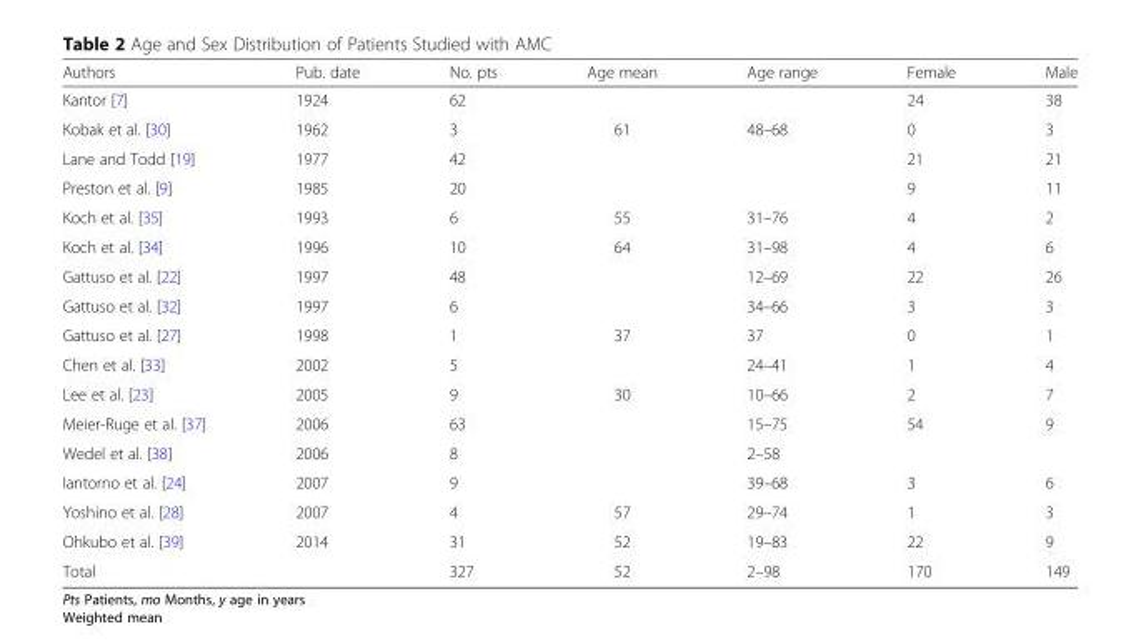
<table><thead><tr><td>Authors</td><td>Pub. date</td><td>No. pts</td><td>Age mean</td><td>Age range</td><td>Female</td><td>Male</td></tr></thead><tbody><tr><td>Kantor [7]</td><td>1924</td><td>62</td><td></td><td></td><td>24</td><td>38</td></tr><tr><td>Kobak et al. [30]</td><td>1962</td><td>3</td><td>61</td><td>48–68</td><td>0</td><td>3</td></tr><tr><td>Lane and Todd [19]</td><td>1977</td><td>42</td><td></td><td></td><td>21</td><td>21</td></tr><tr><td>Preston et al. [9]</td><td>1985</td><td>20</td><td></td><td></td><td>9</td><td>11</td></tr><tr><td>Koch et al. [35]</td><td>1993</td><td>6</td><td>55</td><td>31–76</td><td>4</td><td>2</td></tr><tr><td>Koch et al. [34]</td><td>1996</td><td>10</td><td>64</td><td>31–98</td><td>4</td><td>6</td></tr><tr><td>Gattuso et al. [22]</td><td>1997</td><td>48</td><td></td><td>12–69</td><td>22</td><td>26</td></tr><tr><td>Gattuso et al. [32]</td><td>1997</td><td>6</td><td></td><td>34–66</td><td>3</td><td>3</td></tr><tr><td>Gattuso et al. [27]</td><td>1998</td><td>1</td><td>37</td><td>37</td><td>0</td><td>1</td></tr><tr><td>Chen et al. [33]</td><td>2002</td><td>5</td><td></td><td>24–41</td><td>1</td><td>4</td></tr><tr><td>Lee et al. [23]</td><td>2005</td><td>9</td><td>30</td><td>10–66</td><td>2</td><td>7</td></tr><tr><td>Meier-Ruge et al. [37]</td><td>2006</td><td>63</td><td></td><td>15–75</td><td>54</td><td>9</td></tr><tr><td>Wedel et al. [38]</td><td>2006</td><td>8</td><td></td><td>2–58</td><td></td><td></td></tr><tr><td>Iantorno et al. [24]</td><td>2007</td><td>9</td><td></td><td>39–68</td><td>3</td><td>6</td></tr><tr><td>Yoshino et al. [28]</td><td>2007</td><td>4</td><td>57</td><td>29–74</td><td>1</td><td>3</td></tr><tr><td>Ohkubo et al. [39]</td><td>2014</td><td>31</td><td>52</td><td>19–83</td><td>22</td><td>9</td></tr><tr><td>Total</td><td></td><td>327</td><td>52</td><td>2–98</td><td>170</td><td>149</td></tr></tbody></table>